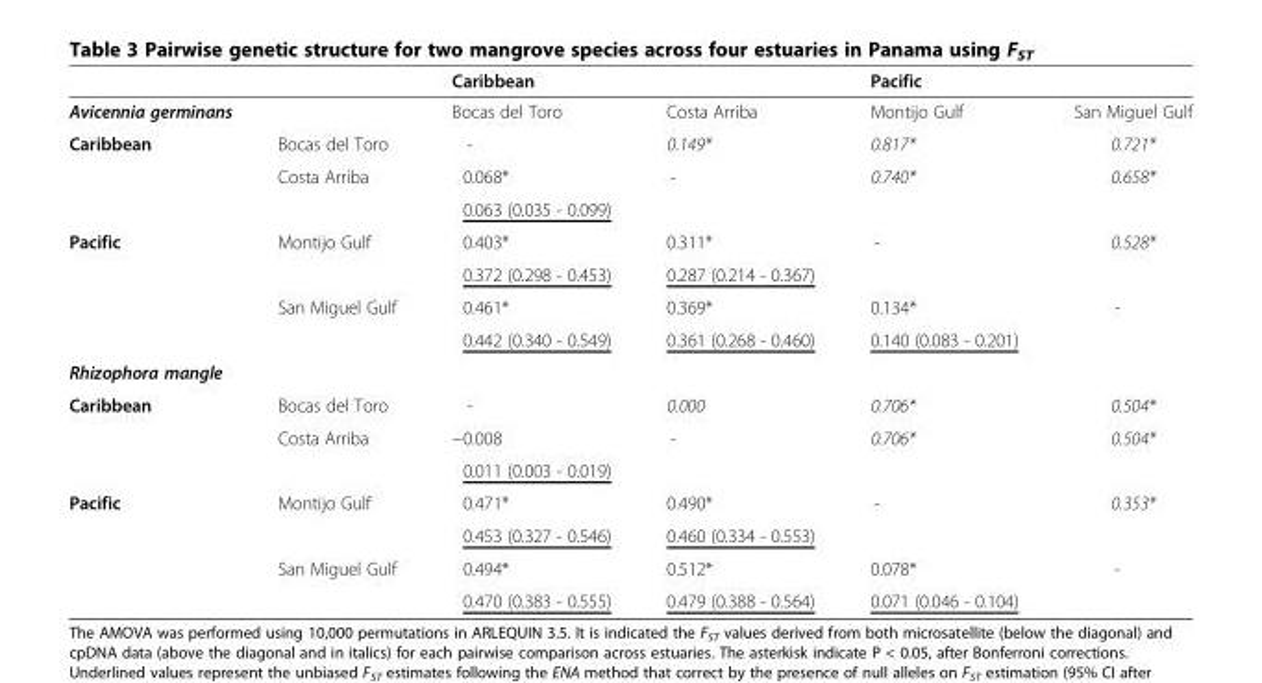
<table><thead><tr><td></td><td></td><td>Caribbean</td><td></td><td>Pacific</td><td></td></tr></thead><tbody><tr><td colspan="2">Avicennia germinans</td><td>Bocas del Toro</td><td>Costa Arriba</td><td>Montijo Gulf</td><td>San Miguel Gulf</td></tr><tr><td rowspan="3">Caribbean</td><td>Bocas del Toro</td><td>-</td><td>0.149*</td><td>0.817*</td><td>0.721*</td></tr><tr><td>Costa Arriba</td><td>0.068*</td><td>-</td><td>0.740*</td><td>0.658*</td></tr><tr><td></td><td>0.063 (0.035 - 0.099)</td><td></td><td></td><td></td></tr><tr><td rowspan="4">Pacific</td><td>Montijo Gulf</td><td>0.403*</td><td>0.311*</td><td>-</td><td>0.528*</td></tr><tr><td></td><td>0.372 (0.298 - 0.453)</td><td>0.287 (0.214 - 0.367)</td><td></td><td></td></tr><tr><td>San Miguel Gulf</td><td>0.461*</td><td>0.369*</td><td>0.134*</td><td>-</td></tr><tr><td></td><td>0.442 (0.340 - 0.549)</td><td>0.361 (0.268 - 0.460)</td><td>0.140 (0.083 - 0.201)</td><td></td></tr><tr><td colspan="6">Rhizophora mangle</td></tr><tr><td rowspan="3">Caribbean</td><td>Bocas del Toro</td><td>-</td><td>0.000</td><td>0.706*</td><td>0.504*</td></tr><tr><td>Costa Arriba</td><td>−0.008</td><td>-</td><td>0.706*</td><td>0.504*</td></tr><tr><td></td><td>0.011 (0.003 - 0.019)</td><td></td><td></td><td></td></tr><tr><td rowspan="4">Pacific</td><td>Montijo Gulf</td><td>0.471*</td><td>0.490*</td><td>-</td><td>0.353*</td></tr><tr><td></td><td>0.453 (0.327 - 0.546)</td><td>0.460 (0.334 - 0.553)</td><td></td><td></td></tr><tr><td>San Miguel Gulf</td><td>0.494*</td><td>0.512*</td><td>0.078*</td><td>-</td></tr><tr><td></td><td>0.470 (0.383 - 0.555)</td><td>0.479 (0.388 - 0.564)</td><td>0.071 (0.046 - 0.104)</td><td></td></tr></tbody></table>